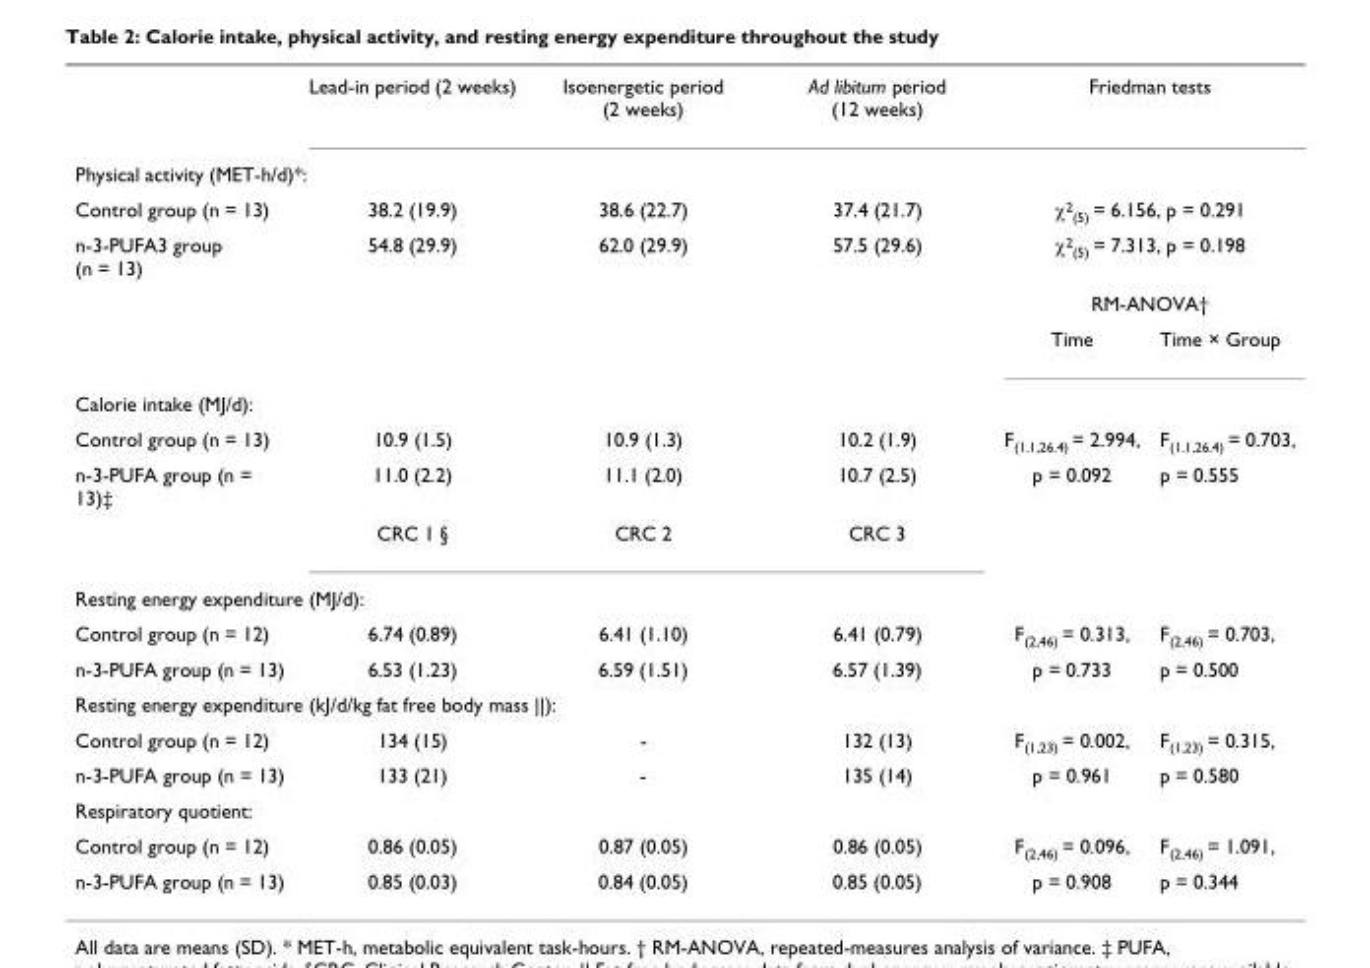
<table><thead><tr><td></td><td>Lead-in period (2 weeks)</td><td>Isoenergetic period (2 weeks)</td><td>Ad libitum period (12 weeks)</td><td colspan="2">Friedman tests</td></tr></thead><tbody><tr><td colspan="6">Physical activity (MET-h/d)*:</td></tr><tr><td>Control group (n = 13)</td><td>38.2 (19.9)</td><td>38.6 (22.7)</td><td>37.4 (21.7)</td><td colspan="2">χ<sup>2</sup><sub>(5)</sub> = 6.156, p = 0.291</td></tr><tr><td rowspan="3">n-3-PUFA3 group (n = 13)</td><td>54.8 (29.9)</td><td>62.0 (29.9)</td><td>57.5 (29.6)</td><td colspan="2">χ<sup>2</sup><sub>(5)</sub> = 7.313, p = 0.198</td></tr><tr><td></td><td></td><td></td><td colspan="2">RM-ANOVA†</td></tr><tr><td></td><td></td><td></td><td>Time</td><td>Time × Group</td></tr><tr><td colspan="6">Calorie intake (MJ/d):</td></tr><tr><td>Control group (n = 13)</td><td>10.9 (1.5)</td><td>10.9 (1.3)</td><td>10.2 (1.9)</td><td>F<sub>(1.1,26.4)</sub> = 2.994,</td><td>F<sub>(1.1,26.4)</sub> = 0.703,</td></tr><tr><td rowspan="2">n-3-PUFA group (n = 13)‡</td><td>11.0 (2.2)</td><td>11.1 (2.0)</td><td>10.7 (2.5)</td><td>p = 0.092</td><td>p = 0.555</td></tr><tr><td>CRC 1 §</td><td>CRC 2</td><td>CRC 3</td><td></td><td></td></tr><tr><td colspan="6">Resting energy expenditure (MJ/d):</td></tr><tr><td>Control group (n = 12)</td><td>6.74 (0.89)</td><td>6.41 (1.10)</td><td>6.41 (0.79)</td><td>F<sub>(2,46)</sub> = 0.313,</td><td>F<sub>(2,46)</sub> = 0.703,</td></tr><tr><td>n-3-PUFA group (n = 13)</td><td>6.53 (1.23)</td><td>6.59 (1.51)</td><td>6.57 (1.39)</td><td>p = 0.733</td><td>p = 0.500</td></tr><tr><td colspan="6">Resting energy expenditure (kJ/d/kg fat free body mass ||):</td></tr><tr><td>Control group (n = 12)</td><td>134 (15)</td><td>-</td><td>132 (13)</td><td>F<sub>(1,23)</sub> = 0.002,</td><td>F<sub>(1,23)</sub> = 0.315,</td></tr><tr><td>n-3-PUFA group (n = 13)</td><td>133 (21)</td><td>-</td><td>135 (14)</td><td>p = 0.961</td><td>p = 0.580</td></tr><tr><td colspan="6">Respiratory quotient:</td></tr><tr><td>Control group (n = 12)</td><td>0.86 (0.05)</td><td>0.87 (0.05)</td><td>0.86 (0.05)</td><td>F<sub>(2,46)</sub> = 0.096,</td><td>F<sub>(2,46)</sub> = 1.091,</td></tr><tr><td>n-3-PUFA group (n = 13)</td><td>0.85 (0.03)</td><td>0.84 (0.05)</td><td>0.85 (0.05)</td><td>p = 0.908</td><td>p = 0.344</td></tr></tbody></table>